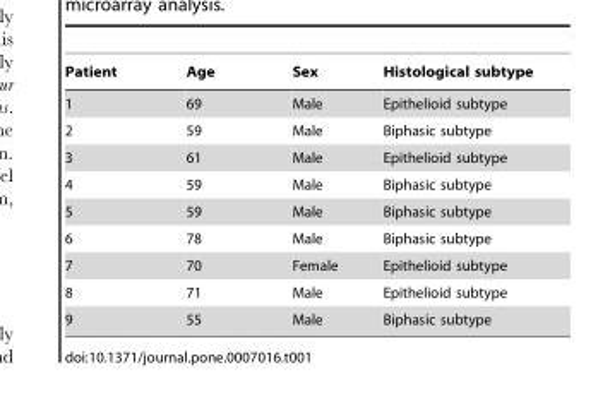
<table><thead><tr><td>Patient</td><td>Age</td><td>Sex</td><td>Histological subtype</td></tr></thead><tbody><tr><td>1</td><td>69</td><td>Male</td><td>Epithelioid subtype</td></tr><tr><td>2</td><td>59</td><td>Male</td><td>Biphasic subtype</td></tr><tr><td>3</td><td>61</td><td>Male</td><td>Epithelioid subtype</td></tr><tr><td>4</td><td>59</td><td>Male</td><td>Biphasic subtype</td></tr><tr><td>5</td><td>59</td><td>Male</td><td>Biphasic subtype</td></tr><tr><td>6</td><td>78</td><td>Male</td><td>Biphasic subtype</td></tr><tr><td>7</td><td>70</td><td>Female</td><td>Epithelioid subtype</td></tr><tr><td>8</td><td>71</td><td>Male</td><td>Epithelioid subtype</td></tr><tr><td>9</td><td>55</td><td>Male</td><td>Biphasic subtype</td></tr></tbody></table>